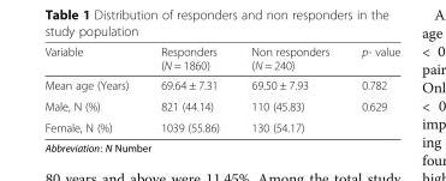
<table><thead><tr><td>Variable</td><td>Responders (N = 1860)</td><td>Non responders (N = 240)</td><td>p- value</td></tr></thead><tbody><tr><td>Mean age (Years)</td><td>69.64 ± 7.31</td><td>69.50 ± 7.93</td><td>0.782</td></tr><tr><td>Male, N (%)</td><td>821 (44.14)</td><td>110 (45.83)</td><td rowspan="2">0.629</td></tr><tr><td>Female, N (%)</td><td>1039 (55.86)</td><td>130 (54.17)</td></tr></tbody></table>